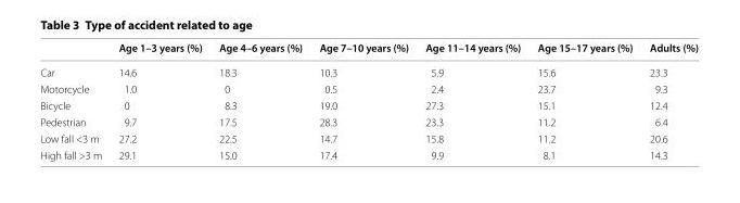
<table><thead><tr><td></td><td>Age 1–3 years (%)</td><td>Age 4–6 years (%)</td><td>Age 7–10 years (%)</td><td>Age 11–14 years (%)</td><td>Age 15–17 years (%)</td><td>Adults (%)</td></tr></thead><tbody><tr><td>Car</td><td>14.6</td><td>18.3</td><td>10.3</td><td>5.9</td><td>15.6</td><td>23.3</td></tr><tr><td>Motorcycle</td><td>1.0</td><td>0</td><td>0.5</td><td>2.4</td><td>23.7</td><td>9.3</td></tr><tr><td>Bicycle</td><td>0</td><td>8.3</td><td>19.0</td><td>27.3</td><td>15.1</td><td>12.4</td></tr><tr><td>Pedestrian</td><td>9.7</td><td>17.5</td><td>28.3</td><td>23.3</td><td>11.2</td><td>6.4</td></tr><tr><td>Low fall &lt;3 m</td><td>27.2</td><td>22.5</td><td>14.7</td><td>15.8</td><td>11.2</td><td>20.6</td></tr><tr><td>High fall &gt;3 m</td><td>29.1</td><td>15.0</td><td>17.4</td><td>9.9</td><td>8.1</td><td>14.3</td></tr></tbody></table>